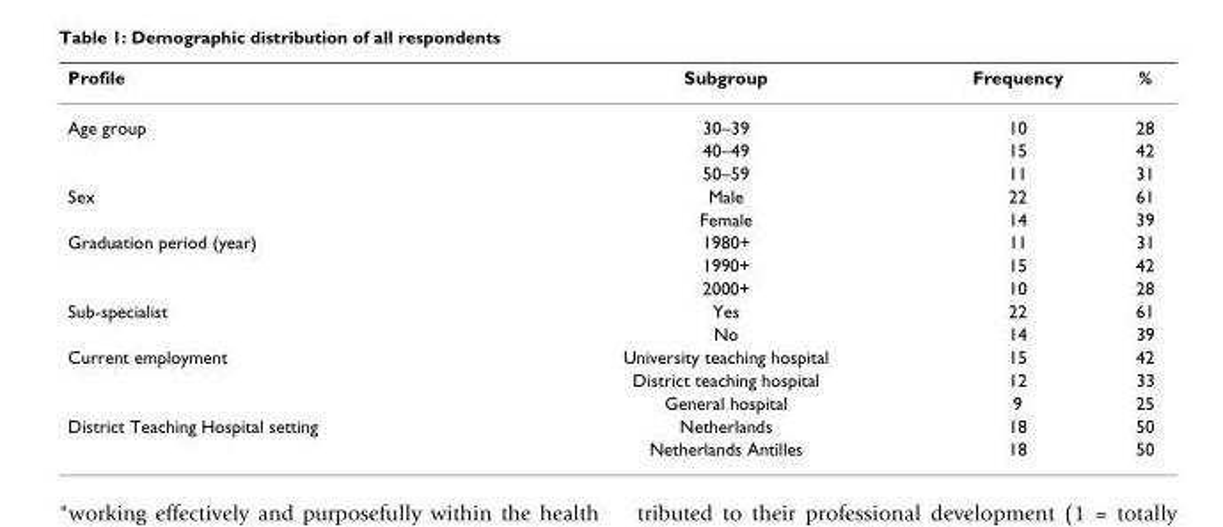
<table><thead><tr><td>Profile</td><td>Subgroup</td><td>Frequency</td><td>%</td></tr></thead><tbody><tr><td rowspan="3">Age group</td><td>30–39</td><td>10</td><td>28</td></tr><tr><td>40–49</td><td>15</td><td>42</td></tr><tr><td>50–59</td><td>11</td><td>31</td></tr><tr><td rowspan="2">Sex</td><td>Male</td><td>22</td><td>61</td></tr><tr><td>Female</td><td>14</td><td>39</td></tr><tr><td rowspan="3">Graduation period (year)</td><td>1980+</td><td>11</td><td>31</td></tr><tr><td>1990+</td><td>15</td><td>42</td></tr><tr><td>2000+</td><td>10</td><td>28</td></tr><tr><td rowspan="2">Sub-specialist</td><td>Yes</td><td>22</td><td>61</td></tr><tr><td>No</td><td>14</td><td>39</td></tr><tr><td rowspan="3">Current employment</td><td>University teaching hospital</td><td>15</td><td>42</td></tr><tr><td>District teaching hospital</td><td>12</td><td>33</td></tr><tr><td>General hospital</td><td>9</td><td>25</td></tr><tr><td rowspan="2">District Teaching Hospital setting</td><td>Netherlands</td><td>18</td><td>50</td></tr><tr><td>Netherlands Antilles</td><td>18</td><td>50</td></tr></tbody></table>